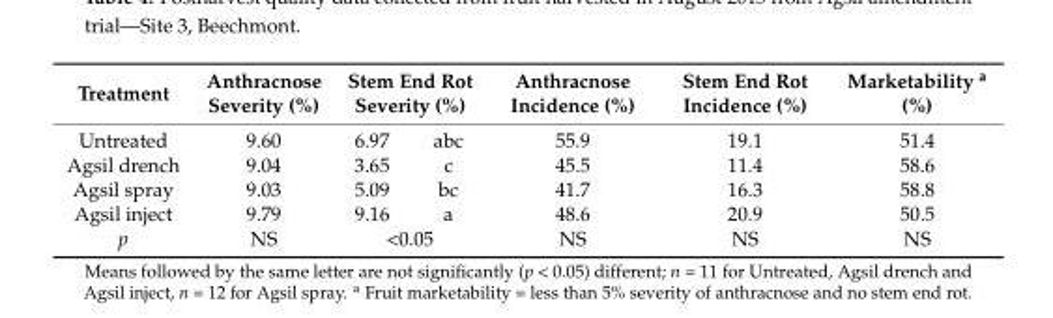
<table><thead><tr><td rowspan="2">Treatment Untreated</td><td rowspan="2">Anthracnose Severity (%) 9.60</td><td colspan="2">Stem End Rot Severity (%)</td><td rowspan="2">Anthracnose Incidence (%) 55.9</td><td rowspan="2">Stem End Rot Incidence (%) 19.1</td><td rowspan="2">Marketability <sup>a</sup> (%) 51.4</td></tr><tr><td>6.97</td><td>abc</td></tr></thead><tbody><tr><td>Agsil drench</td><td>9.04</td><td>3.65</td><td>c</td><td>45.5</td><td>11.4</td><td>58.6</td></tr><tr><td>Agsil spray</td><td>9.03</td><td>5.09</td><td>bc</td><td>41.7</td><td>16.3</td><td>58.8</td></tr><tr><td>Agsil inject</td><td>9.79</td><td>9.16</td><td>a</td><td>48.6</td><td>20.9</td><td>50.5</td></tr><tr><td>p</td><td>NS</td><td colspan="2">&lt;0.05</td><td>NS</td><td>NS</td><td>NS</td></tr></tbody></table>